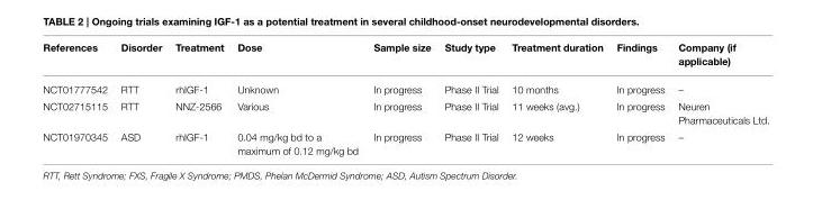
<table><thead><tr><td>References</td><td>Disorder</td><td>Treatment</td><td>Dose</td><td>Sample size</td><td>Study type</td><td>Treatment duration</td><td>Findings</td><td>Company (if applicable)</td></tr></thead><tbody><tr><td>NCT01777542</td><td>RTT</td><td>rhIGF-1</td><td>Unknown</td><td>In progress</td><td>Phase II Trial</td><td>10 months</td><td>In progress</td><td>–</td></tr><tr><td>NCT02715115</td><td>RTT</td><td>NNZ-2566</td><td>Various</td><td>In progress</td><td>Phase II Trial</td><td>11 weeks (avg.)</td><td>In progress</td><td>Neuren Pharmaceuticals Ltd.</td></tr><tr><td>NCT01970345</td><td>ASD</td><td>rhIGF-1</td><td>0.04 mg/kg bd to a maximum of 0.12 mg/kg bd</td><td>In progress</td><td>Phase II Trial</td><td>12 weeks</td><td>In progress</td><td>–</td></tr></tbody></table>